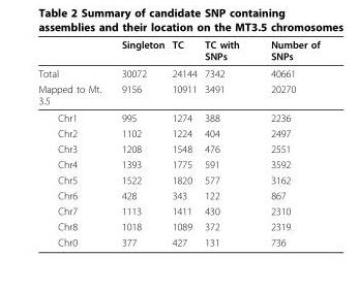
<table><thead><tr><td></td><td>Singleton</td><td>TC</td><td>TC with SNPs</td><td>Number of SNPs</td></tr></thead><tbody><tr><td>Total</td><td>30072</td><td>24144</td><td>7342</td><td>40661</td></tr><tr><td>Mapped to Mt. 3.5</td><td>9156</td><td>10911</td><td>3491</td><td>20270</td></tr><tr><td>Chr1</td><td>995</td><td>1274</td><td>388</td><td>2236</td></tr><tr><td>Chr2</td><td>1102</td><td>1224</td><td>404</td><td>2497</td></tr><tr><td>Chr3</td><td>1208</td><td>1548</td><td>476</td><td>2551</td></tr><tr><td>Chr4</td><td>1393</td><td>1775</td><td>591</td><td>3592</td></tr><tr><td>Chr5</td><td>1522</td><td>1820</td><td>577</td><td>3162</td></tr><tr><td>Chr6</td><td>428</td><td>343</td><td>122</td><td>867</td></tr><tr><td>Chr7</td><td>1113</td><td>1411</td><td>430</td><td>2310</td></tr><tr><td>Chr8</td><td>1018</td><td>1089</td><td>372</td><td>2319</td></tr><tr><td>Chr0</td><td>377</td><td>427</td><td>131</td><td>736</td></tr></tbody></table>